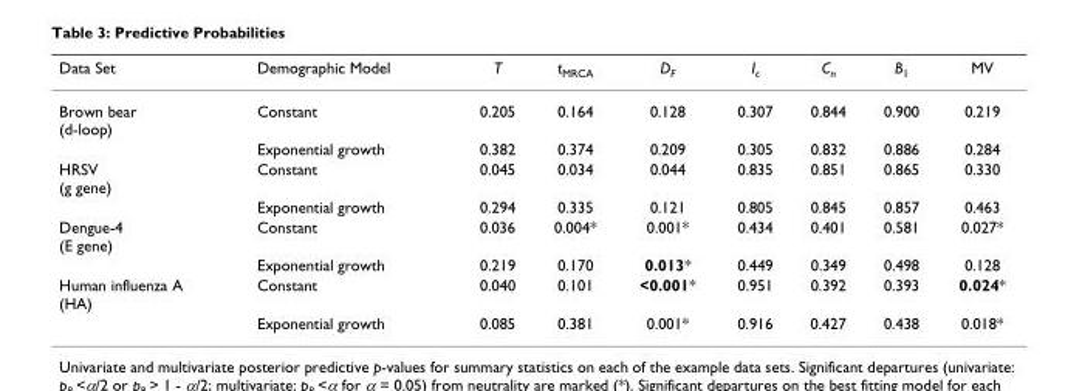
<table><thead><tr><td>Data Set</td><td>Demographic Model</td><td>T</td><td>t<sub>MRCA</sub></td><td>D<sub>F</sub></td><td>I<sub>c</sub></td><td>C<sub>n</sub></td><td>B<sub>1</sub></td><td>MV</td></tr></thead><tbody><tr><td rowspan="2">Brown bear (d-loop)</td><td>Constant</td><td>0.205</td><td>0.164</td><td>0.128</td><td>0.307</td><td>0.844</td><td>0.900</td><td>0.219</td></tr><tr><td>Exponential growth</td><td>0.382</td><td>0.374</td><td>0.209</td><td>0.305</td><td>0.832</td><td>0.886</td><td>0.284</td></tr><tr><td rowspan="2">HRSV (g gene)</td><td>Constant</td><td>0.045</td><td>0.034</td><td>0.044</td><td>0.835</td><td>0.851</td><td>0.865</td><td>0.330</td></tr><tr><td>Exponential growth</td><td>0.294</td><td>0.335</td><td>0.121</td><td>0.805</td><td>0.845</td><td>0.857</td><td>0.463</td></tr><tr><td rowspan="2">Dengue-4 (E gene)</td><td>Constant</td><td>0.036</td><td>0.004*</td><td>0.001*</td><td>0.434</td><td>0.401</td><td>0.581</td><td>0.027*</td></tr><tr><td>Exponential growth</td><td>0.219</td><td>0.170</td><td>0.013*</td><td>0.449</td><td>0.349</td><td>0.498</td><td>0.128</td></tr><tr><td rowspan="2">Human influenza A (HA)</td><td>Constant</td><td>0.040</td><td>0.101</td><td>&lt;0.001*</td><td>0.951</td><td>0.392</td><td>0.393</td><td>0.024*</td></tr><tr><td>Exponential growth</td><td>0.085</td><td>0.381</td><td>0.001*</td><td>0.916</td><td>0.427</td><td>0.438</td><td>0.018*</td></tr></tbody></table>